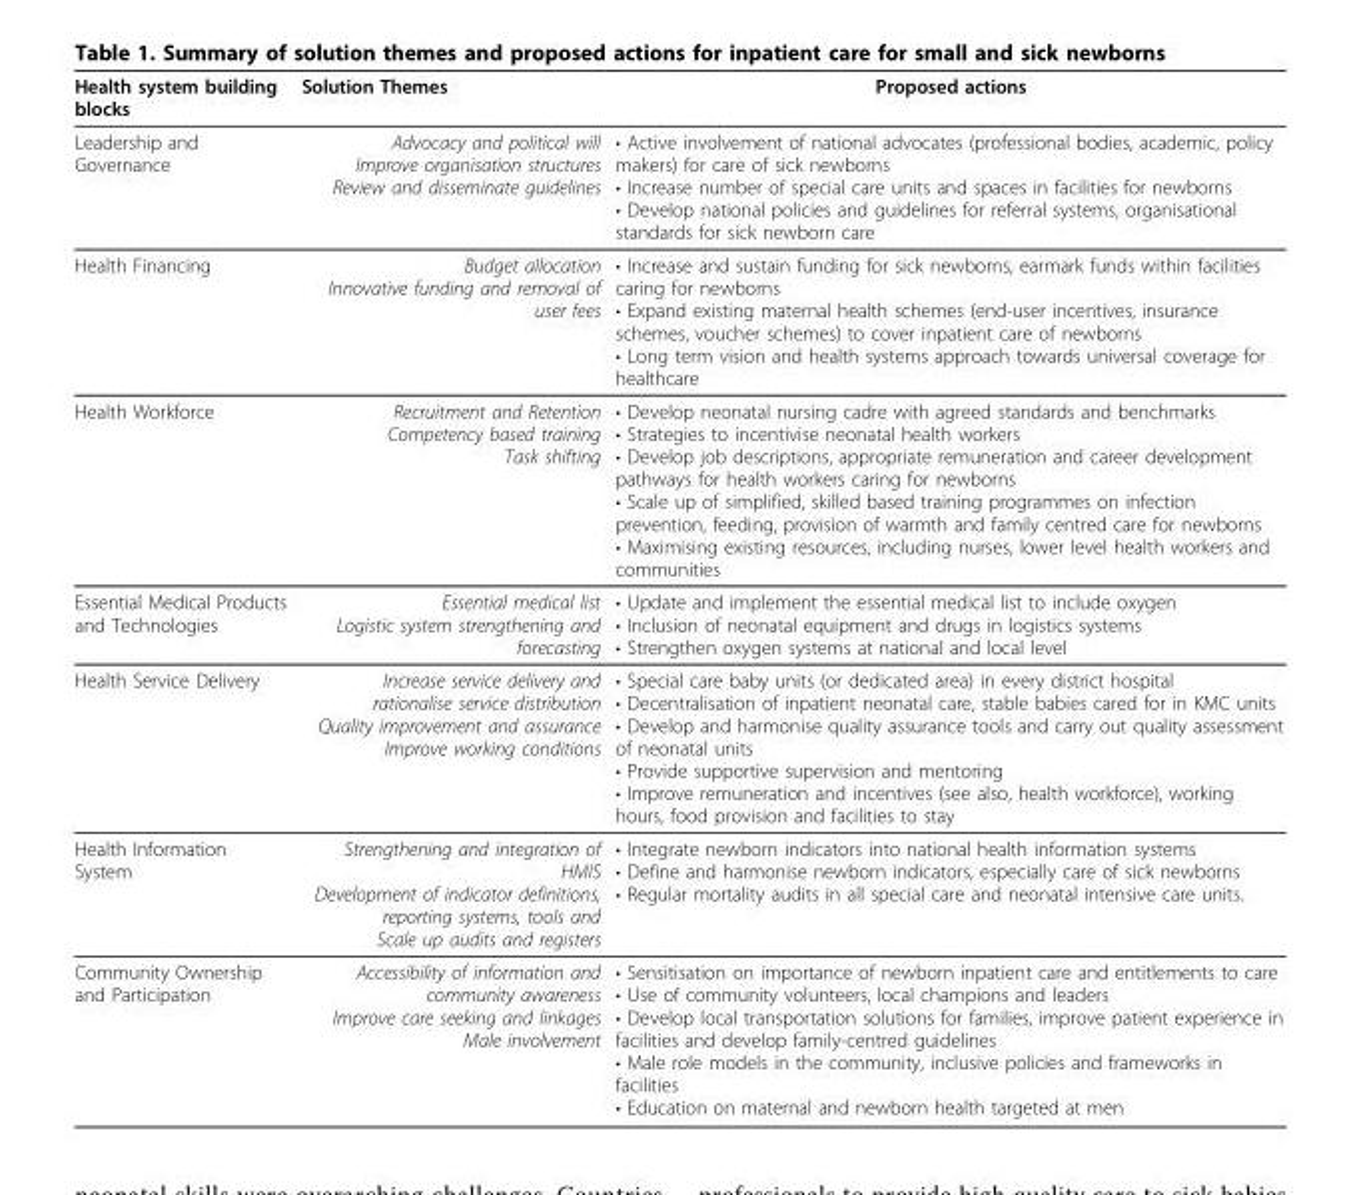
<table><thead><tr><td>Health system building blocks</td><td>Solution Themes</td><td>Proposed actions</td></tr></thead><tbody><tr><td>Leadership and Governance</td><td>Advocacy and political will Improve organisation structures Review and disseminate guidelines</td><td>• Active involvement of national advocates (professional bodies, academic, policy makers) for care of sick newborns • Increase number of special care units and spaces in facilities for newborns • Develop national policies and guidelines for referral systems, organisational standards for sick newborn care</td></tr><tr><td>Health Financing</td><td>Budget allocation Innovative funding and removal of user fees</td><td>• Increase and sustain funding for sick newborns, earmark funds within facilities caring for newborns • Expand existing maternal health schemes (end-user incentives, insurance schemes, voucher schemes) to cover inpatient care of newborns • Long term vision and health systems approach towards universal coverage for healthcare</td></tr><tr><td>Health Workforce</td><td>Recruitment and Retention Competency based training Task shifting</td><td>• Develop neonatal nursing cadre with agreed standards and benchmarks • Strategies to incentivise neonatal health workers • Develop job descriptions, appropriate remuneration and career development pathways for health workers caring for newborns • Scale up of simplified, skilled based training programmes on infection prevention, feeding, provision of warmth and family centred care for newborns • Maximising existing resources, including nurses, lower level health workers and communities</td></tr><tr><td>Essential Medical Products and Technologies</td><td>Essential medical list Logistic system strengthening and forecasting</td><td>• Update and implement the essential medical list to include oxygen • Inclusion of neonatal equipment and drugs in logistics systems • Strengthen oxygen systems at national and local level</td></tr><tr><td>Health Service Delivery</td><td>Increase service delivery and rationalise service distribution Quality improvement and assurance Improve working conditions</td><td>• Special care baby units (or dedicated area) in every district hospital • Decentralisation of inpatient neonatal care, stable babies cared for in KMC units • Develop and harmonise quality assurance tools and carry out quality assessment of neonatal units • Provide supportive supervision and mentoring • Improve remuneration and incentives (see also, health workforce), working hours, food provision and facilities to stay</td></tr><tr><td>Health Information System</td><td>Strengthening and integration of HMIS Development of indicator definitions, reporting systems, tools and Scale up audits and registers</td><td>• Integrate newborn indicators into national health information systems • Define and harmonise newborn indicators, especially care of sick newborns • Regular mortality audits in all special care and neonatal intensive care units.</td></tr><tr><td>Community Ownership and Participation</td><td>Accessibility of information and community awareness Improve care seeking and linkages Male involvement</td><td>• Sensitisation on importance of newborn inpatient care and entitlements to care • Use of community volunteers, local champions and leaders • Develop local transportation solutions for families, improve patient experience in facilities and develop family-centred guidelines • Male role models in the community, inclusive policies and frameworks in facilities • Education on maternal and newborn health targeted at men</td></tr></tbody></table>